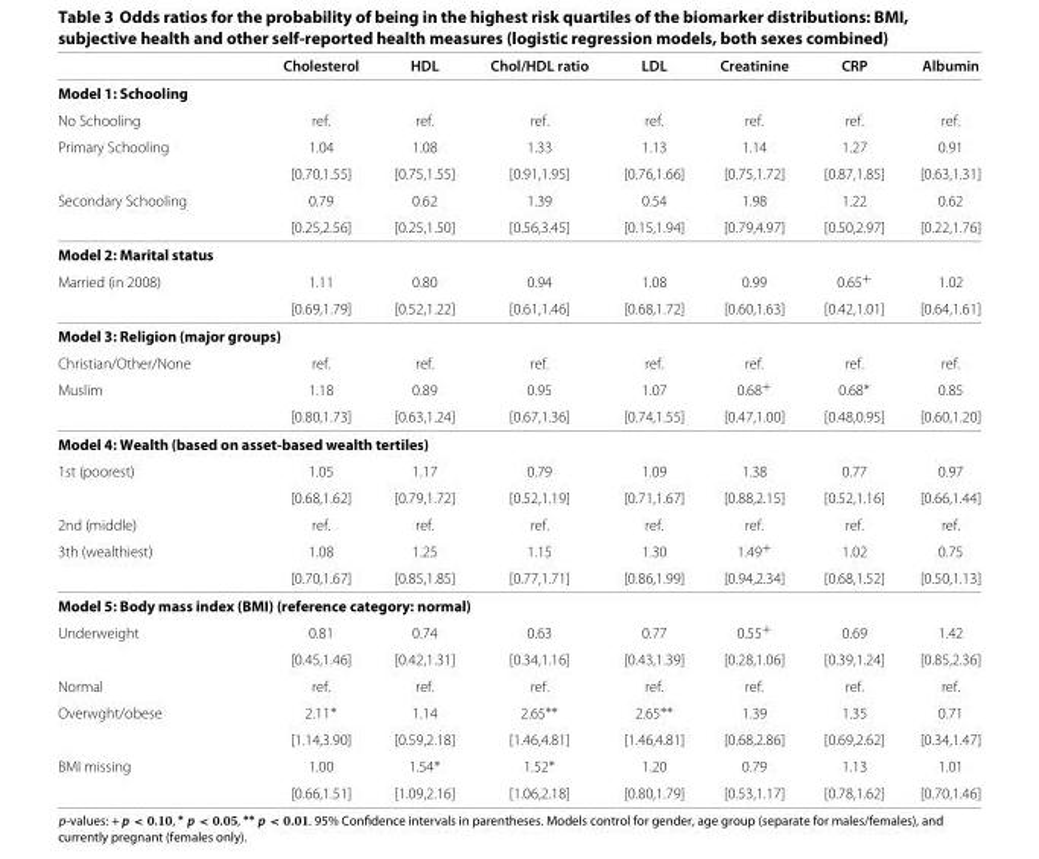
<table><thead><tr><td></td><td>Cholesterol</td><td>HDL</td><td>Chol/HDL ratio</td><td>LDL</td><td>Creatinine</td><td>CRP</td><td>Albumin</td></tr></thead><tbody><tr><td colspan="8">Model 1: Schooling</td></tr><tr><td>No Schooling</td><td>ref.</td><td>ref.</td><td>ref.</td><td>ref.</td><td>ref.</td><td>ref.</td><td>ref.</td></tr><tr><td rowspan="2">Primary Schooling</td><td>1.04</td><td>1.08</td><td>1.33</td><td>1.13</td><td>1.14</td><td>1.27</td><td>0.91</td></tr><tr><td>[0.70,1.55]</td><td>[0.75,1.55]</td><td>[0.91,1.95]</td><td>[0.76,1.66]</td><td>[0.75,1.72]</td><td>[0.87,1.85]</td><td>[0.63,1.31]</td></tr><tr><td rowspan="2">Secondary Schooling</td><td>0.79</td><td>0.62</td><td>1.39</td><td>0.54</td><td>1.98</td><td>1.22</td><td>0.62</td></tr><tr><td>[0.25,2.56]</td><td>[0.25,1.50]</td><td>[0.56,3.45]</td><td>[0.15,1.94]</td><td>[0.79,4.97]</td><td>[0.50,2.97]</td><td>[0.22,1.76]</td></tr><tr><td colspan="8">Model 2: Marital status</td></tr><tr><td rowspan="2">Married (in 2008)</td><td>1.11</td><td>0.80</td><td>0.94</td><td>1.08</td><td>0.99</td><td>0.65<sup>+</sup></td><td>1.02</td></tr><tr><td>[0.69,1.79]</td><td>[0.52,1.22]</td><td>[0.61,1.46]</td><td>[0.68,1.72]</td><td>[0.60,1.63]</td><td>[0.42,1.01]</td><td>[0.64,1.61]</td></tr><tr><td colspan="8">Model 3: Religion (major groups)</td></tr><tr><td>Christian/Other/None</td><td>ref.</td><td>ref.</td><td>ref.</td><td>ref.</td><td>ref.</td><td>ref.</td><td>ref.</td></tr><tr><td rowspan="2">Muslim</td><td>1.18</td><td>0.89</td><td>0.95</td><td>1.07</td><td>0.68<sup>+</sup></td><td>0.68∗</td><td>0.85</td></tr><tr><td>[0.80,1.73]</td><td>[0.63,1.24]</td><td>[0.67,1.36]</td><td>[0.74,1.55]</td><td>[0.47,1.00]</td><td>[0.48,0.95]</td><td>[0.60,1.20]</td></tr><tr><td colspan="8">Model 4: Wealth (based on asset-based wealth tertiles)</td></tr><tr><td rowspan="2">1st (poorest)</td><td>1.05</td><td>1.17</td><td>0.79</td><td>1.09</td><td>1.38</td><td>0.77</td><td>0.97</td></tr><tr><td>[0.68,1.62]</td><td>[0.79,1.72]</td><td>[0.52,1.19]</td><td>[0.71,1.67]</td><td>[0.88,2.15]</td><td>[0.52,1.16]</td><td>[0.66,1.44]</td></tr><tr><td>2nd (middle)</td><td>ref.</td><td>ref.</td><td>ref.</td><td>ref.</td><td>ref.</td><td>ref.</td><td>ref.</td></tr><tr><td rowspan="2">3th (wealthiest)</td><td>1.08</td><td>1.25</td><td>1.15</td><td>1.30</td><td>1.49<sup>+</sup></td><td>1.02</td><td>0.75</td></tr><tr><td>[0.70,1.67]</td><td>[0.85,1.85]</td><td>[0.77,1.71]</td><td>[0.86,1.99]</td><td>[0.94,2.34]</td><td>[0.68,1.52]</td><td>[0.50,1.13]</td></tr><tr><td colspan="8">Model 5: Body mass index (BMI) (reference category: normal)</td></tr><tr><td rowspan="2">Underweight</td><td>0.81</td><td>0.74</td><td>0.63</td><td>0.77</td><td>0.55<sup>+</sup></td><td>0.69</td><td>1.42</td></tr><tr><td>[0.45,1.46]</td><td>[0.42,1.31]</td><td>[0.34,1.16]</td><td>[0.43,1.39]</td><td>[0.28,1.06]</td><td>[0.39,1.24]</td><td>[0.85,2.36]</td></tr><tr><td>Normal</td><td>ref.</td><td>ref.</td><td>ref.</td><td>ref.</td><td>ref.</td><td>ref.</td><td>ref.</td></tr><tr><td rowspan="2">Overwght/obese</td><td>2.11∗</td><td>1.14</td><td>2.65∗∗</td><td>2.65∗∗</td><td>1.39</td><td>1.35</td><td>0.71</td></tr><tr><td>[1.14,3.90]</td><td>[0.59,2.18]</td><td>[1.46,4.81]</td><td>[1.46,4.81]</td><td>[0.68,2.86]</td><td>[0.69,2.62]</td><td>[0.34,1.47]</td></tr><tr><td rowspan="2">BMI missing</td><td>1.00</td><td>1.54∗</td><td>1.52∗</td><td>1.20</td><td>0.79</td><td>1.13</td><td>1.01</td></tr><tr><td>[0.66,1.51]</td><td>[1.09,2.16]</td><td>[1.06,2.18]</td><td>[0.80,1.79]</td><td>[0.53,1.17]</td><td>[0.78,1.62]</td><td>[0.70,1.46]</td></tr></tbody></table>